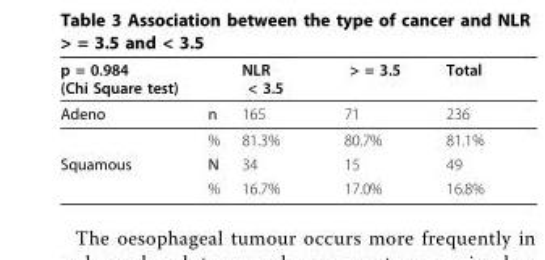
<table><thead><tr><td>p = 0.984 (Chi Square test)</td><td></td><td>NLR &lt; 3.5</td><td>&gt; = 3.5</td><td>Total</td></tr></thead><tbody><tr><td rowspan="2">Adeno</td><td>n</td><td>165</td><td>71</td><td>236</td></tr><tr><td>%</td><td>81.3%</td><td>80.7%</td><td>81.1%</td></tr><tr><td rowspan="2">Squamous</td><td>N</td><td>34</td><td>15</td><td>49</td></tr><tr><td>%</td><td>16.7%</td><td>17.0%</td><td>16.8%</td></tr></tbody></table>